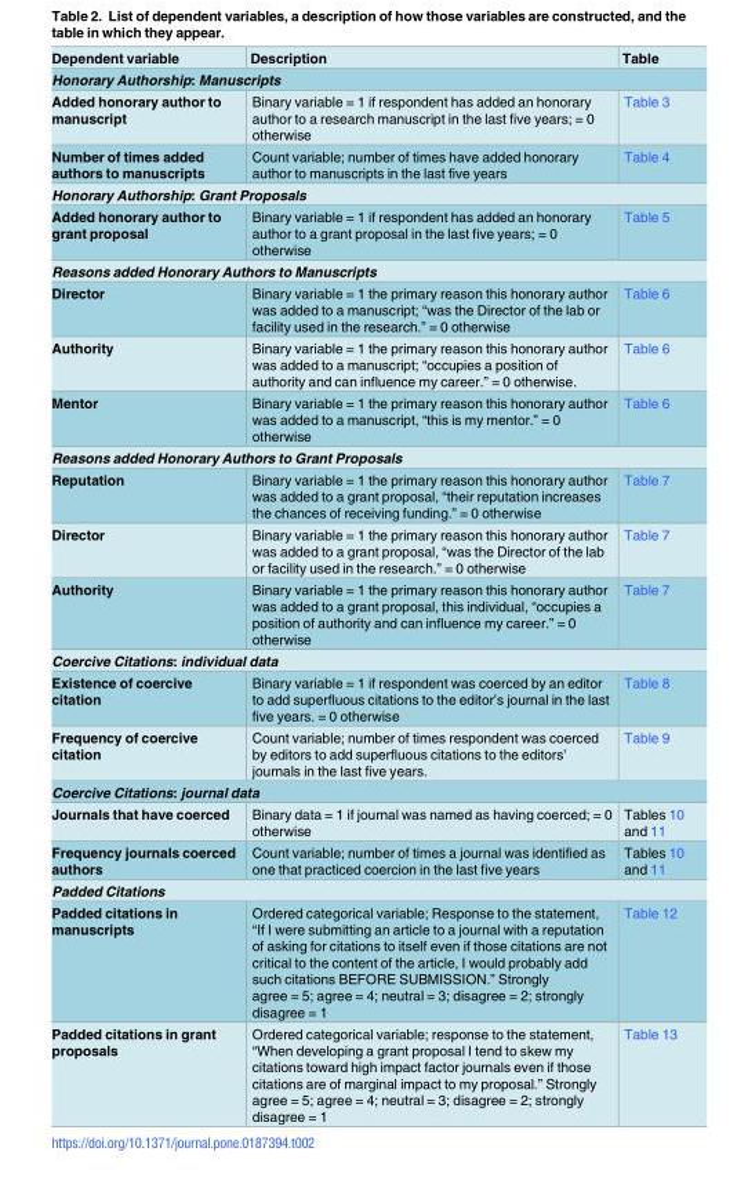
<table><thead><tr><td>Dependent variable</td><td>Description</td><td>Table</td></tr></thead><tbody><tr><td colspan="3">Honorary Authorship: Manuscripts</td></tr><tr><td>Added honorary author to manuscript</td><td>Binary variable = 1 if respondent has added an honorary author to a research manuscript in the last five years; = 0 otherwise</td><td>Table 3</td></tr><tr><td>Number of times added authors to manuscripts</td><td>Count variable; number of times have added honorary author to manuscripts in the last five years</td><td>Table 4</td></tr><tr><td colspan="3">Honorary Authorship: Grant Proposals</td></tr><tr><td>Added honorary author to grant proposal</td><td>Binary variable = 1 if respondent has added an honorary author to a grant proposal in the last five years; = 0 otherwise</td><td>Table 5</td></tr><tr><td colspan="3">Reasons added Honorary Authors to Manuscripts</td></tr><tr><td>Director</td><td>Binary variable = 1 the primary reason this honorary author was added to a manuscript; “was the Director of the lab or facility used in the research.” = 0 otherwise</td><td>Table 6</td></tr><tr><td>Authority</td><td>Binary variable = 1 the primary reason this honorary author was added to a manuscript; “occupies a position of authority and can influence my career.” = 0 otherwise.</td><td>Table 6</td></tr><tr><td>Mentor</td><td>Binary variable = 1 the primary reason this honorary author was added to a manuscript, “this is my mentor.” = 0 otherwise</td><td>Table 6</td></tr><tr><td colspan="3">Reasons added Honorary Authors to Grant Proposals</td></tr><tr><td>Reputation</td><td>Binary variable = 1 the primary reason this honorary author was added to a grant proposal, “their reputation increases the chances of receiving funding.” = 0 otherwise</td><td>Table 7</td></tr><tr><td>Director</td><td>Binary variable = 1 the primary reason this honorary author was added to a grant proposal, “was the Director of the lab or facility used in the research.” = 0 otherwise</td><td>Table 7</td></tr><tr><td>Authority</td><td>Binary variable = 1 the primary reason this honorary author was added to a grant proposal, this individual, “occupies a position of authority and can influence my career.” = 0 otherwise</td><td>Table 7</td></tr><tr><td colspan="3">Coercive Citations: individual data</td></tr><tr><td>Existence of coercive citation</td><td>Binary variable = 1 if respondent was coerced by an editor to add superfluous citations to the editor’s journal in the last five years. = 0 otherwise</td><td>Table 8</td></tr><tr><td>Frequency of coercive citation</td><td>Count variable; number of times respondent was coerced by editors to add superfluous citations to the editors’ journals in the last five years.</td><td>Table 9</td></tr><tr><td colspan="3">Coercive Citations: journal data</td></tr><tr><td>Journals that have coerced</td><td>Binary data = 1 if journal was named as having coerced; = 0 otherwise</td><td>Tables 10 and 11</td></tr><tr><td>Frequency journals coerced authors</td><td>Count variable; number of times a journal was identified as one that practiced coercion in the last five years</td><td>Tables 10 and 11</td></tr><tr><td colspan="3">Padded Citations</td></tr><tr><td>Padded citations in manuscripts</td><td>Ordered categorical variable; Response to the statement, “If I were submitting an article to a journal with a reputation of asking for citations to itself even if those citations are not critical to the content of the article, I would probably add such citations BEFORE SUBMISSION.” Strongly agree = 5; agree = 4; neutral = 3; disagree = 2; strongly disagree = 1</td><td>Table 12</td></tr><tr><td>Padded citations in grant proposals</td><td>Ordered categorical variable; response to the statement, “When developing a grant proposal I tend to skew my citations toward high impact factor journals even if those citations are of marginal impact to my proposal.” Strongly agree = 5; agree = 4; neutral = 3; disagree = 2; strongly disagree = 1</td><td>Table 13</td></tr></tbody></table>